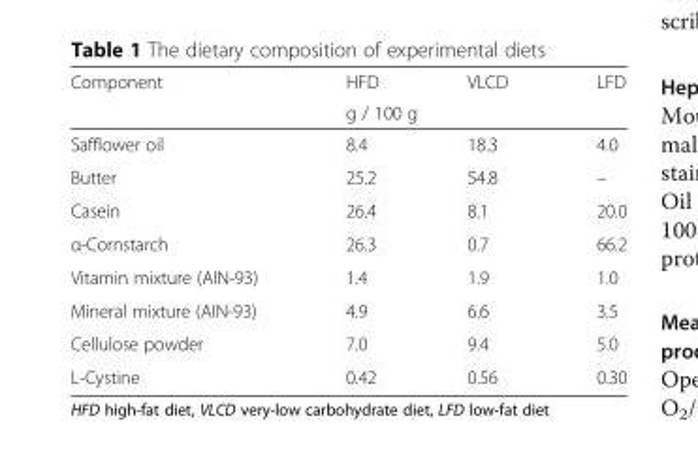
<table><thead><tr><td rowspan="2">Component</td><td>HFD</td><td>VLCD</td><td>LFD</td></tr><tr><td colspan="3">g / 100 g</td></tr></thead><tbody><tr><td>Safflower oil</td><td>8.4</td><td>18.3</td><td>4.0</td></tr><tr><td>Butter</td><td>25.2</td><td>54.8</td><td>–</td></tr><tr><td>Casein</td><td>26.4</td><td>8.1</td><td>20.0</td></tr><tr><td>α-Cornstarch</td><td>26.3</td><td>0.7</td><td>66.2</td></tr><tr><td>Vitamin mixture (AIN-93)</td><td>1.4</td><td>1.9</td><td>1.0</td></tr><tr><td>Mineral mixture (AIN-93)</td><td>4.9</td><td>6.6</td><td>3.5</td></tr><tr><td>Cellulose powder</td><td>7.0</td><td>9.4</td><td>5.0</td></tr><tr><td>L-Cystine</td><td>0.42</td><td>0.56</td><td>0.30</td></tr></tbody></table>